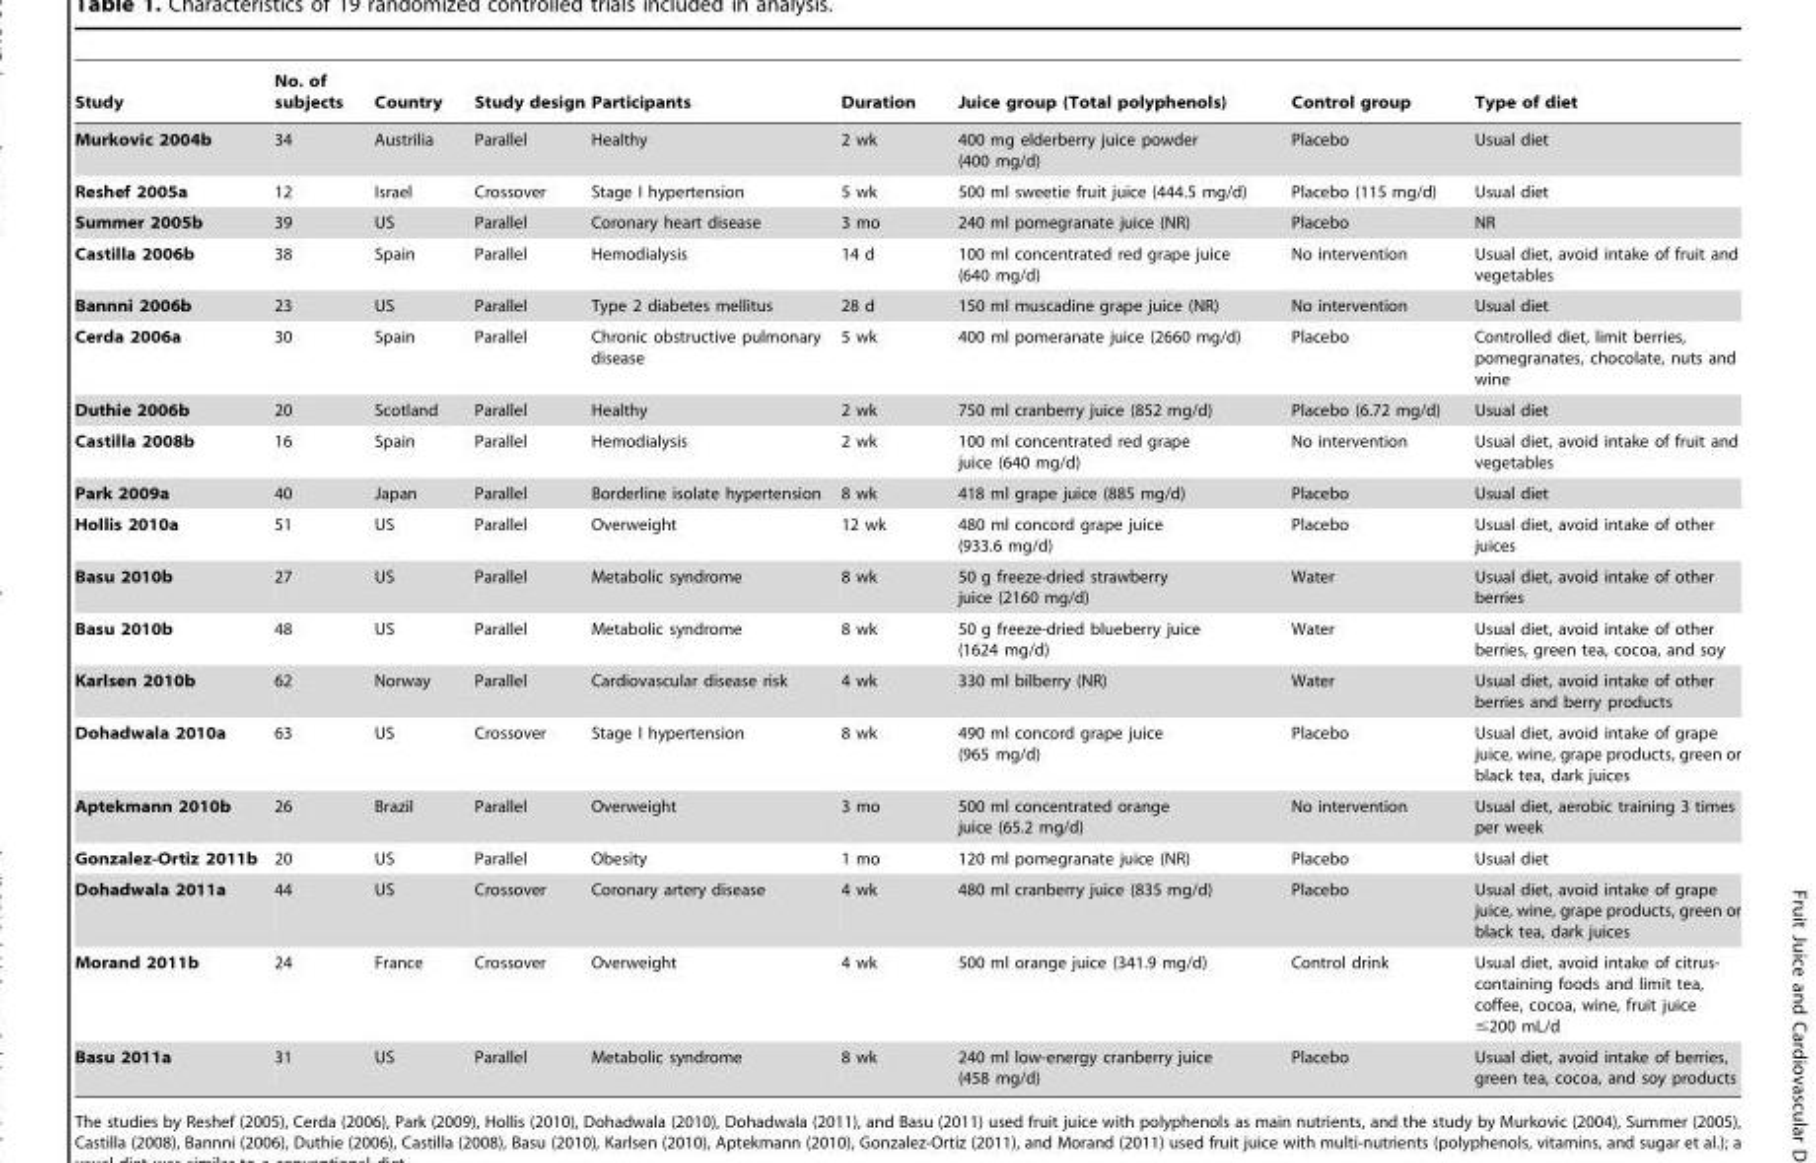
<table><thead><tr><td>Study</td><td>No. of subjects</td><td>Country</td><td>Study design</td><td>Participants</td><td>Duration</td><td>Juice group (Total polyphenols)</td><td>Control group</td><td>Type of diet</td></tr></thead><tbody><tr><td>Murkovic 2004b</td><td>34</td><td>Austrilia</td><td>Parallel</td><td>Healthy</td><td>2 wk</td><td>400 mg elderberry juice powder (400 mg/d)</td><td>Placebo</td><td>Usual diet</td></tr><tr><td>Reshef 2005a</td><td>12</td><td>Israel</td><td>Crossover</td><td>Stage I hypertension</td><td>5 wk</td><td>500 ml sweetie fruit juice (444.5 mg/d)</td><td>Placebo (115 mg/d)</td><td>Usual diet</td></tr><tr><td>Summer 2005b</td><td>39</td><td>US</td><td>Parallel</td><td>Coronary heart disease</td><td>3 mo</td><td>240 ml pomegranate juice (NR)</td><td>Placebo</td><td>NR</td></tr><tr><td>Castilla 2006b</td><td>38</td><td>Spain</td><td>Parallel</td><td>Hemodialysis</td><td>14 d</td><td>100 ml concentrated red grape juice (640 mg/d)</td><td>No intervention</td><td>Usual diet, avoid intake of fruit and vegetables</td></tr><tr><td>Bannni 2006b</td><td>23</td><td>US</td><td>Parallel</td><td>Type 2 diabetes mellitus</td><td>28 d</td><td>150 ml muscadine grape juice (NR)</td><td>No intervention</td><td>Usual diet</td></tr><tr><td>Cerda 2006a</td><td>30</td><td>Spain</td><td>Parallel</td><td>Chronic obstructive pulmonary disease</td><td>5 wk</td><td>400 ml pomeranate juice (2660 mg/d)</td><td>Placebo</td><td>Controlled diet, limit berries, pomegranates, chocolate, nuts and wine</td></tr><tr><td>Duthie 2006b</td><td>20</td><td>Scotland</td><td>Parallel</td><td>Healthy</td><td>2 wk</td><td>750 ml cranberry juice (852 mg/d)</td><td>Placebo (6.72 mg/d)</td><td>Usual diet</td></tr><tr><td>Castilla 2008b</td><td>16</td><td>Spain</td><td>Parallel</td><td>Hemodialysis</td><td>2 wk</td><td>100 ml concentrated red grape juice (640 mg/d)</td><td>No intervention</td><td>Usual diet, avoid intake of fruit and vegetables</td></tr><tr><td>Park 2009a</td><td>40</td><td>Japan</td><td>Parallel</td><td>Borderline isolate hypertension</td><td>8 wk</td><td>418 ml grape juice (885 mg/d)</td><td>Placebo</td><td>Usual diet</td></tr><tr><td>Hollis 2010a</td><td>51</td><td>US</td><td>Parallel</td><td>Overweight</td><td>12 wk</td><td>480 ml concord grape juice (933.6 mg/d)</td><td>Placebo</td><td>Usual diet, avoid intake of other juices</td></tr><tr><td>Basu 2010b</td><td>27</td><td>US</td><td>Parallel</td><td>Metabolic syndrome</td><td>8 wk</td><td>50 g freeze-dried strawberry juice (2160 mg/d)</td><td>Water</td><td>Usual diet, avoid intake of other berries</td></tr><tr><td>Basu 2010b</td><td>48</td><td>US</td><td>Parallel</td><td>Metabolic syndrome</td><td>8 wk</td><td>50 g freeze-dried blueberry juice (1624 mg/d)</td><td>Water</td><td>Usual diet, avoid intake of other berries, green tea, cocoa, and soy</td></tr><tr><td>Karlsen 2010b</td><td>62</td><td>Norway</td><td>Parallel</td><td>Cardiovascular disease risk</td><td>4 wk</td><td>330 ml bilberry (NR)</td><td>Water</td><td>Usual diet, avoid intake of other berries and berry products</td></tr><tr><td>Dohadwala 2010a</td><td>63</td><td>US</td><td>Crossover</td><td>Stage I hypertension</td><td>8 wk</td><td>490 ml concord grape juice (965 mg/d)</td><td>Placebo</td><td>Usual diet, avoid intake of grape juice, wine, grape products, green or black tea, dark juices</td></tr><tr><td>Aptekmann 2010b</td><td>26</td><td>Brazil</td><td>Parallel</td><td>Overweight</td><td>3 mo</td><td>500 ml concentrated orange juice (65.2 mg/d)</td><td>No intervention</td><td>Usual diet, aerobic training 3 times per week</td></tr><tr><td>Gonzalez-Ortiz 2011b</td><td>20</td><td>US</td><td>Parallel</td><td>Obesity</td><td>1 mo</td><td>120 ml pomegranate juice (NR)</td><td>Placebo</td><td>Usual diet</td></tr><tr><td>Dohadwala 2011a</td><td>44</td><td>US</td><td>Crossover</td><td>Coronary artery disease</td><td>4 wk</td><td>480 ml cranberry juice (835 mg/d)</td><td>Placebo</td><td>Usual diet, avoid intake of grape juice, wine, grape products, green or black tea, dark juices</td></tr><tr><td>Morand 2011b</td><td>24</td><td>France</td><td>Crossover</td><td>Overweight</td><td>4 wk</td><td>500 ml orange juice (341.9 mg/d)</td><td>Control drink</td><td>Usual diet, avoid intake of citrus- containing foods and limit tea, coffee, cocoa, wine, fruit juice ≤200 mL/d</td></tr><tr><td>Basu 2011a</td><td>31</td><td>US</td><td>Parallel</td><td>Metabolic syndrome</td><td>8 wk</td><td>240 ml low-energy cranberry juice (458 mg/d)</td><td>Placebo</td><td>Usual diet, avoid intake of berries, green tea, cocoa, and soy products</td></tr></tbody></table>